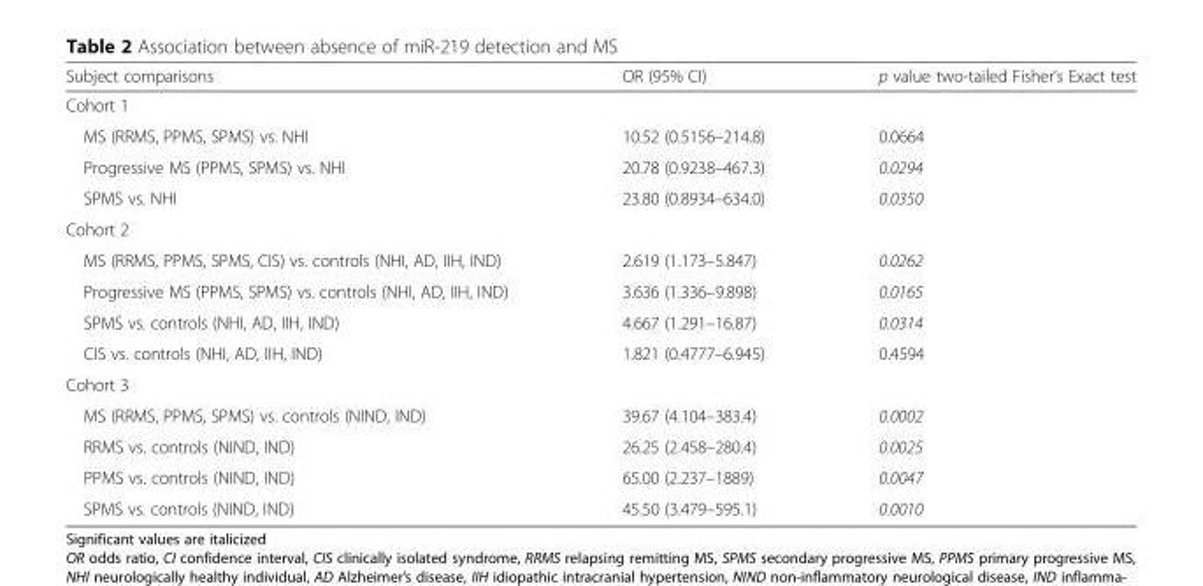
<table><thead><tr><td>Subject comparisons</td><td>OR (95% CI)</td><td>p value two-tailed Fisher’s Exact test</td></tr></thead><tbody><tr><td colspan="3">Cohort 1</td></tr><tr><td>MS (RRMS, PPMS, SPMS) vs. NHI</td><td>10.52 (0.5156–214.8)</td><td>0.0664</td></tr><tr><td>Progressive MS (PPMS, SPMS) vs. NHI</td><td>20.78 (0.9238–467.3)</td><td>0.0294</td></tr><tr><td>SPMS vs. NHI</td><td>23.80 (0.8934–634.0)</td><td>0.0350</td></tr><tr><td colspan="3">Cohort 2</td></tr><tr><td>MS (RRMS, PPMS, SPMS, CIS) vs. controls (NHI, AD, IIH, IND)</td><td>2.619 (1.173–5.847)</td><td>0.0262</td></tr><tr><td>Progressive MS (PPMS, SPMS) vs. controls (NHI, AD, IIH, IND)</td><td>3.636 (1.336–9.898)</td><td>0.0165</td></tr><tr><td>SPMS vs. controls (NHI, AD, IIH, IND)</td><td>4.667 (1.291–16.87)</td><td>0.0314</td></tr><tr><td>CIS vs. controls (NHI, AD, IIH, IND)</td><td>1.821 (0.4777–6.945)</td><td>0.4594</td></tr><tr><td colspan="3">Cohort 3</td></tr><tr><td>MS (RRMS, PPMS, SPMS) vs. controls (NIND, IND)</td><td>39.67 (4.104–383.4)</td><td>0.0002</td></tr><tr><td>RRMS vs. controls (NIND, IND)</td><td>26.25 (2.458–280.4)</td><td>0.0025</td></tr><tr><td>PPMS vs. controls (NIND, IND)</td><td>65.00 (2.237–1889)</td><td>0.0047</td></tr><tr><td>SPMS vs. controls (NIND, IND)</td><td>45.50 (3.479–595.1)</td><td>0.0010</td></tr></tbody></table>